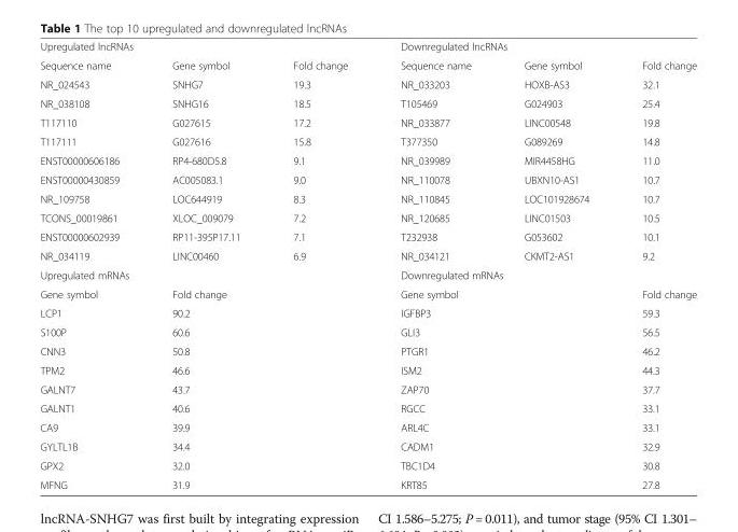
<table><tbody><tr><td colspan="3">Upregulated lncRNAs</td><td colspan="3">Downregulated lncRNAs</td></tr><tr><td>Sequence name</td><td>Gene symbol</td><td>Fold change</td><td>Sequence name</td><td>Gene symbol</td><td>Fold change</td></tr><tr><td>NR_024543</td><td>SNHG7</td><td>19.3</td><td>NR_033203</td><td>HOXB-AS3</td><td>32.1</td></tr><tr><td>NR_038108</td><td>SNHG16</td><td>18.5</td><td>T105469</td><td>G024903</td><td>25.4</td></tr><tr><td>T117110</td><td>G027615</td><td>17.2</td><td>NR_033877</td><td>LINC00548</td><td>19.8</td></tr><tr><td>T117111</td><td>G027616</td><td>15.8</td><td>T377350</td><td>G089269</td><td>14.8</td></tr><tr><td>ENST00000606186</td><td>RP4-680D5.8</td><td>9.1</td><td>NR_039989</td><td>MIR4458HG</td><td>11.0</td></tr><tr><td>ENST00000430859</td><td>AC005083.1</td><td>9.0</td><td>NR_110078</td><td>UBXN10-AS1</td><td>10.7</td></tr><tr><td>NR_109758</td><td>LOC644919</td><td>8.3</td><td>NR_110845</td><td>LOC101928674</td><td>10.7</td></tr><tr><td>TCONS_00019861</td><td>XLOC_009079</td><td>7.2</td><td>NR_120685</td><td>LINC01503</td><td>10.5</td></tr><tr><td>ENST00000602939</td><td>RP11-395P17.11</td><td>7.1</td><td>T232938</td><td>G053602</td><td>10.1</td></tr><tr><td>NR_034119</td><td>LINC00460</td><td>6.9</td><td>NR_034121</td><td>CKMT2-AS1</td><td>9.2</td></tr><tr><td colspan="3">Upregulated mRNAs</td><td colspan="3">Downregulated mRNAs</td></tr><tr><td>Gene symbol</td><td colspan="2">Fold change</td><td colspan="2">Gene symbol</td><td>Fold change</td></tr><tr><td>LCP1</td><td colspan="2">90.2</td><td colspan="2">IGFBP3</td><td>59.3</td></tr><tr><td>S100P</td><td colspan="2">60.6</td><td colspan="2">GLI3</td><td>56.5</td></tr><tr><td>CNN3</td><td colspan="2">50.8</td><td colspan="2">PTGR1</td><td>46.2</td></tr><tr><td>TPM2</td><td colspan="2">46.6</td><td colspan="2">ISM2</td><td>44.3</td></tr><tr><td>GALNT7</td><td colspan="2">43.7</td><td colspan="2">ZAP70</td><td>37.7</td></tr><tr><td>GALNT1</td><td colspan="2">40.6</td><td colspan="2">RGCC</td><td>33.1</td></tr><tr><td>CA9</td><td colspan="2">39.9</td><td colspan="2">ARL4C</td><td>33.1</td></tr><tr><td>GYLTL1B</td><td colspan="2">34.4</td><td colspan="2">CADM1</td><td>32.9</td></tr><tr><td>GPX2</td><td colspan="2">32.0</td><td colspan="2">TBC1D4</td><td>30.8</td></tr><tr><td>MFNG</td><td colspan="2">31.9</td><td colspan="2">KRT85</td><td>27.8</td></tr></tbody></table>